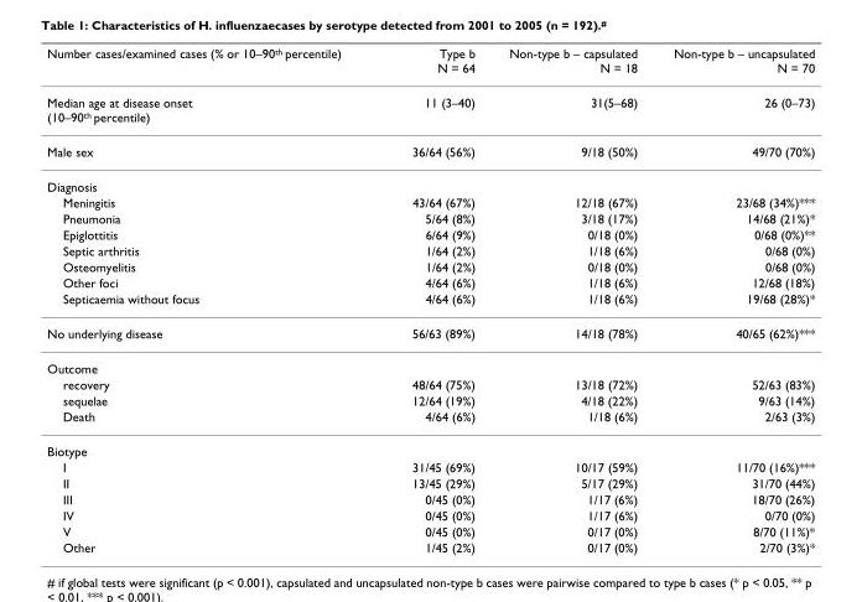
<table><thead><tr><td>Number cases/examined cases (% or 10–90<sup>th</sup> percentile)</td><td>Type b N = 64</td><td>Non-type b – capsulated N = 18</td><td>Non-type b – uncapsulated N = 70</td></tr></thead><tbody><tr><td>Median age at disease onset (10–90<sup>th</sup> percentile)</td><td>11 (3–40)</td><td>31(5–68)</td><td>26 (0–73)</td></tr><tr><td>Male sex</td><td>36/64 (56%)</td><td>9/18 (50%)</td><td>49/70 (70%)</td></tr><tr><td colspan="4">Diagnosis</td></tr><tr><td>Meningitis</td><td>43/64 (67%)</td><td>12/18 (67%)</td><td>23/68 (34%)***</td></tr><tr><td>Pneumonia</td><td>5/64 (8%)</td><td>3/18 (17%)</td><td>14/68 (21%)*</td></tr><tr><td>Epiglottitis</td><td>6/64 (9%)</td><td>0/18 (0%)</td><td>0/68 (0%)**</td></tr><tr><td>Septic arthritis</td><td>1/64 (2%)</td><td>1/18 (6%)</td><td>0/68 (0%)</td></tr><tr><td>Osteomyelitis</td><td>1/64 (2%)</td><td>0/18 (0%)</td><td>0/68 (0%)</td></tr><tr><td>Other foci</td><td>4/64 (6%)</td><td>1/18 (6%)</td><td>12/68 (18%)</td></tr><tr><td>Septicaemia without focus</td><td>4/64 (6%)</td><td>1/18 (6%)</td><td>19/68 (28%)*</td></tr><tr><td>No underlying disease</td><td>56/63 (89%)</td><td>14/18 (78%)</td><td>40/65 (62%)***</td></tr><tr><td colspan="4">Outcome</td></tr><tr><td>recovery</td><td>48/64 (75%)</td><td>13/18 (72%)</td><td>52/63 (83%)</td></tr><tr><td>sequelae</td><td>12/64 (19%)</td><td>4/18 (22%)</td><td>9/63 (14%)</td></tr><tr><td>Death</td><td>4/64 (6%)</td><td>1/18 (6%)</td><td>2/63 (3%)</td></tr><tr><td colspan="4">Biotype</td></tr><tr><td>I</td><td>31/45 (69%)</td><td>10/17 (59%)</td><td>11/70 (16%)***</td></tr><tr><td>II</td><td>13/45 (29%)</td><td>5/17 (29%)</td><td>31/70 (44%)</td></tr><tr><td>III</td><td>0/45 (0%)</td><td>1/17 (6%)</td><td>18/70 (26%)</td></tr><tr><td>IV</td><td>0/45 (0%)</td><td>1/17 (6%)</td><td>0/70 (0%)</td></tr><tr><td>V</td><td>0/45 (0%)</td><td>0/17 (0%)</td><td>8/70 (11%)*</td></tr><tr><td>Other</td><td>1/45 (2%)</td><td>0/17 (0%)</td><td>2/70 (3%)*</td></tr></tbody></table>